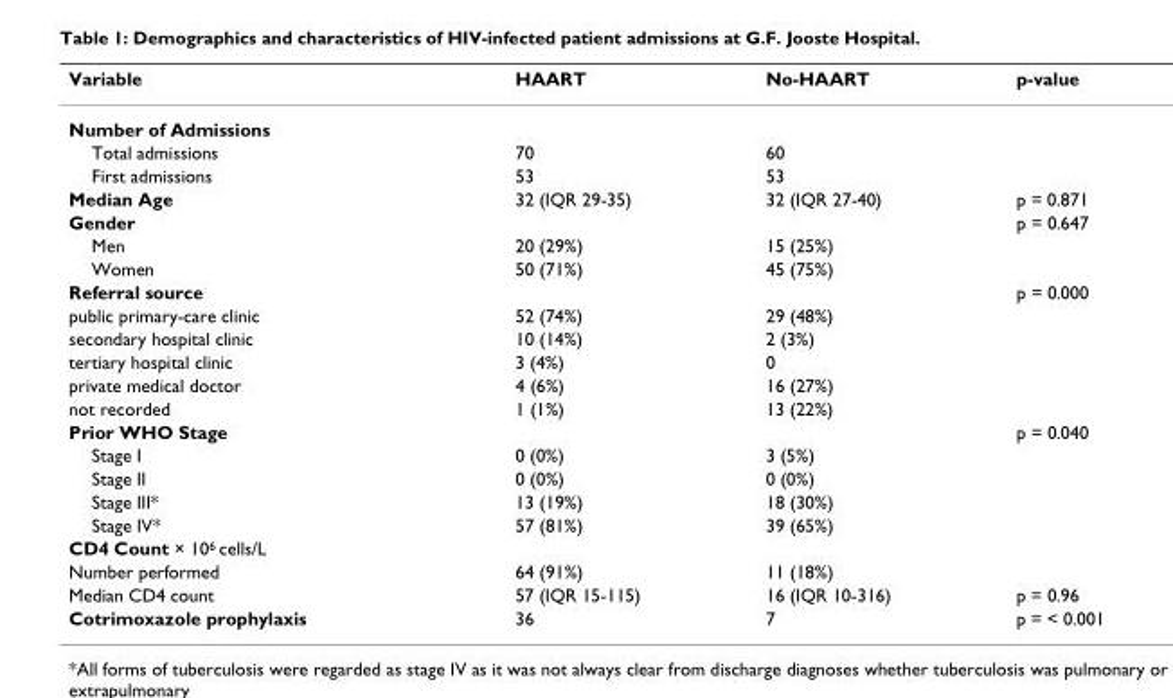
<table><thead><tr><td>Variable</td><td>HAART</td><td>No-HAART</td><td>p-value</td></tr></thead><tbody><tr><td colspan="4">Number of Admissions</td></tr><tr><td>Total admissions</td><td>70</td><td>60</td><td></td></tr><tr><td>First admissions</td><td>53</td><td>53</td><td></td></tr><tr><td>Median Age</td><td>32 (IQR 29-35)</td><td>32 (IQR 27-40)</td><td>p = 0.871</td></tr><tr><td>Gender</td><td></td><td></td><td>p = 0.647</td></tr><tr><td>Men</td><td>20 (29%)</td><td>15 (25%)</td><td></td></tr><tr><td>Women</td><td>50 (71%)</td><td>45 (75%)</td><td></td></tr><tr><td>Referral source</td><td></td><td></td><td>p = 0.000</td></tr><tr><td>public primary-care clinic</td><td>52 (74%)</td><td>29 (48%)</td><td></td></tr><tr><td>secondary hospital clinic</td><td>10 (14%)</td><td>2 (3%)</td><td></td></tr><tr><td>tertiary hospital clinic</td><td>3 (4%)</td><td>0</td><td></td></tr><tr><td>private medical doctor</td><td>4 (6%)</td><td>16 (27%)</td><td></td></tr><tr><td>not recorded</td><td>1 (1%)</td><td>13 (22%)</td><td></td></tr><tr><td>Prior WHO Stage</td><td></td><td></td><td>p = 0.040</td></tr><tr><td>Stage I</td><td>0 (0%)</td><td>3 (5%)</td><td></td></tr><tr><td>Stage II</td><td>0 (0%)</td><td>0 (0%)</td><td></td></tr><tr><td>Stage III*</td><td>13 (19%)</td><td>18 (30%)</td><td></td></tr><tr><td>Stage IV*</td><td>57 (81%)</td><td>39 (65%)</td><td></td></tr><tr><td colspan="4">CD4 Count × 10<sup>6</sup> cells/L</td></tr><tr><td>Number performed</td><td>64 (91%)</td><td>11 (18%)</td><td></td></tr><tr><td>Median CD4 count</td><td>57 (IQR 15-115)</td><td>16 (IQR 10-316)</td><td>p = 0.96</td></tr><tr><td>Cotrimoxazole prophylaxis</td><td>36</td><td>7</td><td>p = &lt; 0.001</td></tr></tbody></table>